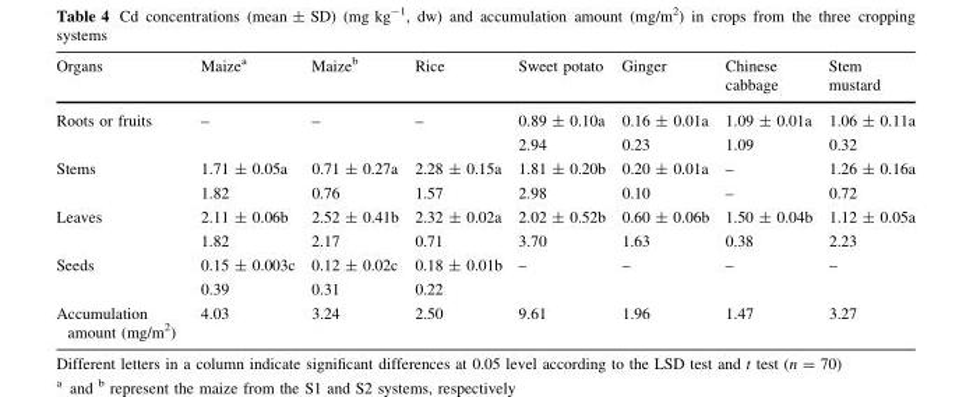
<table><thead><tr><td>Organs</td><td>Maize<sup>a</sup></td><td>Maize<sup>b</sup></td><td>Rice</td><td>Sweet potato</td><td>Ginger</td><td>Chinese cabbage</td><td>Stem mustard</td></tr></thead><tbody><tr><td rowspan="2">Roots or fruits</td><td>–</td><td>–</td><td>–</td><td>0.89 ± 0.10a</td><td>0.16 ± 0.01a</td><td>1.09 ± 0.01a</td><td>1.06 ± 0.11a</td></tr><tr><td></td><td></td><td></td><td>2.94</td><td>0.23</td><td>1.09</td><td>0.32</td></tr><tr><td rowspan="2">Stems</td><td>1.71 ± 0.05a</td><td>0.71 ± 0.27a</td><td>2.28 ± 0.15a</td><td>1.81 ± 0.20b</td><td>0.20 ± 0.01a</td><td>–</td><td>1.26 ± 0.16a</td></tr><tr><td>1.82</td><td>0.76</td><td>1.57</td><td>2.98</td><td>0.10</td><td>–</td><td>0.72</td></tr><tr><td rowspan="2">Leaves</td><td>2.11 ± 0.06b</td><td>2.52 ± 0.41b</td><td>2.32 ± 0.02a</td><td>2.02 ± 0.52b</td><td>0.60 ± 0.06b</td><td>1.50 ± 0.04b</td><td>1.12 ± 0.05a</td></tr><tr><td>1.82</td><td>2.17</td><td>0.71</td><td>3.70</td><td>1.63</td><td>0.38</td><td>2.23</td></tr><tr><td rowspan="2">Seeds</td><td>0.15 ± 0.003c</td><td>0.12 ± 0.02c</td><td>0.18 ± 0.01b</td><td>–</td><td>–</td><td>–</td><td>–</td></tr><tr><td>0.39</td><td>0.31</td><td>0.22</td><td></td><td></td><td></td><td></td></tr><tr><td>Accumulation amount (mg/m<sup>2</sup>)</td><td>4.03</td><td>3.24</td><td>2.50</td><td>9.61</td><td>1.96</td><td>1.47</td><td>3.27</td></tr></tbody></table>